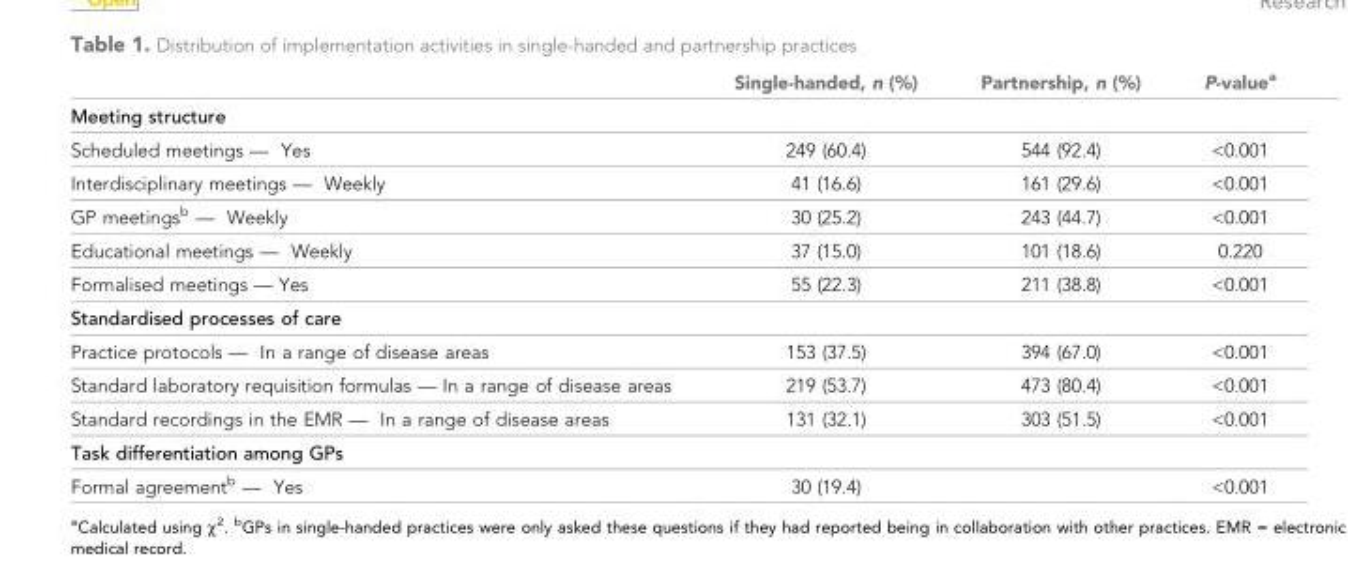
<table><thead><tr><td></td><td>Single-handed, n (%)</td><td>Partnership, n (%)</td><td>P-value<sup>a</sup></td></tr></thead><tbody><tr><td colspan="4">Meeting structure</td></tr><tr><td>Scheduled meetings — Yes</td><td>249 (60.4)</td><td>544 (92.4)</td><td>&lt;0.001</td></tr><tr><td>Interdisciplinary meetings — Weekly</td><td>41 (16.6)</td><td>161 (29.6)</td><td>&lt;0.001</td></tr><tr><td>GP meetings<sup>b</sup> — Weekly</td><td>30 (25.2)</td><td>243 (44.7)</td><td>&lt;0.001</td></tr><tr><td>Educational meetings — Weekly</td><td>37 (15.0)</td><td>101 (18.6)</td><td>0.220</td></tr><tr><td>Formalised meetings — Yes</td><td>55 (22.3)</td><td>211 (38.8)</td><td>&lt;0.001</td></tr><tr><td colspan="4">Standardised processes of care</td></tr><tr><td>Practice protocols — In a range of disease areas</td><td>153 (37.5)</td><td>394 (67.0)</td><td>&lt;0.001</td></tr><tr><td>Standard laboratory requisition formulas — In a range of disease areas</td><td>219 (53.7)</td><td>473 (80.4)</td><td>&lt;0.001</td></tr><tr><td>Standard recordings in the EMR — In a range of disease areas</td><td>131 (32.1)</td><td>303 (51.5)</td><td>&lt;0.001</td></tr><tr><td colspan="4">Task differentiation among GPs</td></tr><tr><td>Formal agreement<sup>b</sup> — Yes</td><td>30 (19.4)</td><td></td><td>&lt;0.001</td></tr></tbody></table>